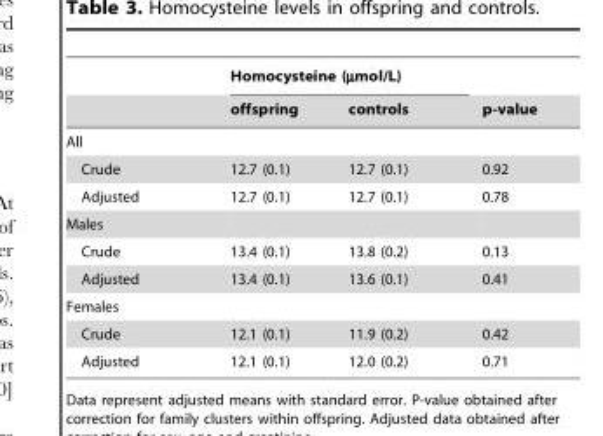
<table><thead><tr><td rowspan="2"></td><td colspan="2">Homocysteine (µmol/L)</td><td rowspan="2">p-value</td></tr><tr><td>offspring</td><td>controls</td></tr></thead><tbody><tr><td colspan="4">All</td></tr><tr><td>Crude</td><td>12.7 (0.1)</td><td>12.7 (0.1)</td><td>0.92</td></tr><tr><td>Adjusted</td><td>12.7 (0.1)</td><td>12.7 (0.1)</td><td>0.78</td></tr><tr><td colspan="4">Males</td></tr><tr><td>Crude</td><td>13.4 (0.1)</td><td>13.8 (0.2)</td><td>0.13</td></tr><tr><td>Adjusted</td><td>13.4 (0.1)</td><td>13.6 (0.1)</td><td>0.41</td></tr><tr><td colspan="4">Females</td></tr><tr><td>Crude</td><td>12.1 (0.1)</td><td>11.9 (0.2)</td><td>0.42</td></tr><tr><td>Adjusted</td><td>12.1 (0.1)</td><td>12.0 (0.2)</td><td>0.71</td></tr></tbody></table>